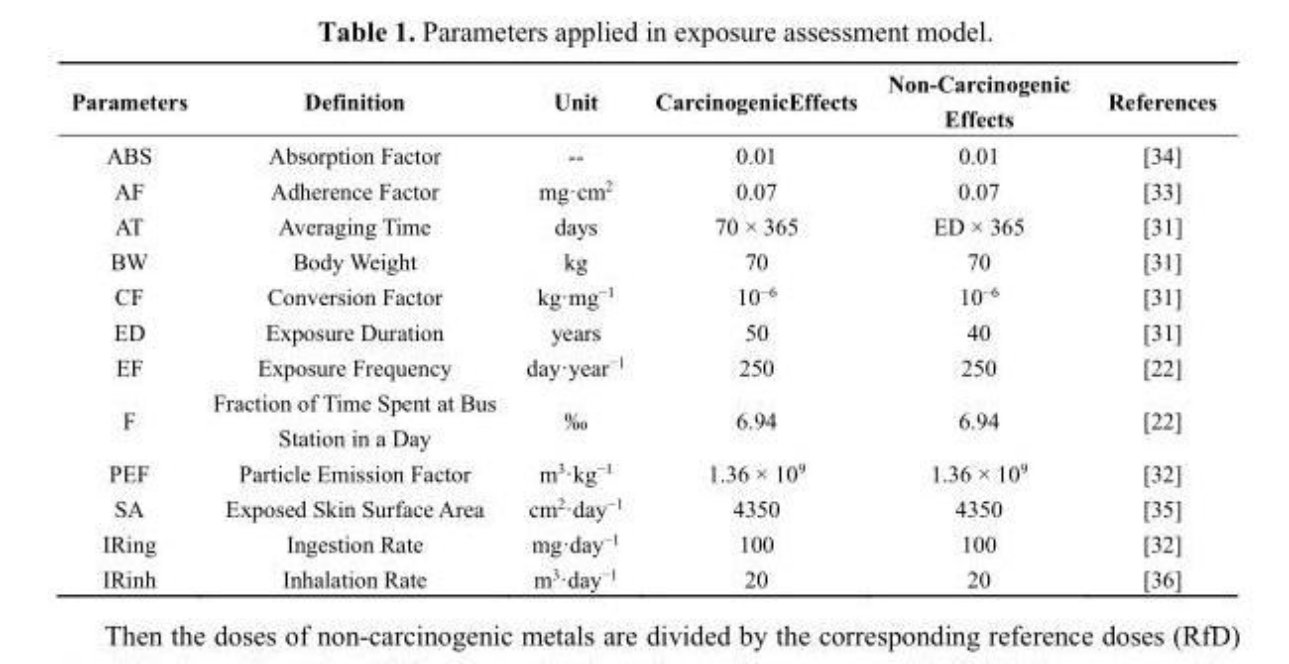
<table><thead><tr><td>Parameters</td><td>Definition</td><td>Unit</td><td>CarcinogenicEffects</td><td>Non-Carcinogenic Effects</td><td>References</td></tr></thead><tbody><tr><td>ABS</td><td>Absorption Factor</td><td>--</td><td>0.01</td><td>0.01</td><td>[34]</td></tr><tr><td>AF</td><td>Adherence Factor</td><td>mg·cm<sup>2</sup></td><td>0.07</td><td>0.07</td><td>[33]</td></tr><tr><td>AT</td><td>Averaging Time</td><td>days</td><td>70 × 365</td><td>ED × 365</td><td>[31]</td></tr><tr><td>BW</td><td>Body Weight</td><td>kg</td><td>70</td><td>70</td><td>[31]</td></tr><tr><td>CF</td><td>Conversion Factor</td><td>kg·mg<sup>−1</sup></td><td>10<sup>−6</sup></td><td>10<sup>−6</sup></td><td>[31]</td></tr><tr><td>ED</td><td>Exposure Duration</td><td>years</td><td>50</td><td>40</td><td>[31]</td></tr><tr><td>EF</td><td>Exposure Frequency</td><td>day·year<sup>−1</sup></td><td>250</td><td>250</td><td>[22]</td></tr><tr><td>F</td><td>Fraction of Time Spent at Bus Station in a Day</td><td>‰</td><td>6.94</td><td>6.94</td><td>[22]</td></tr><tr><td>PEF</td><td>Particle Emission Factor</td><td>m<sup>3</sup>·kg<sup>−1</sup></td><td>1.36 × 10<sup>9</sup></td><td>1.36 × 10<sup>9</sup></td><td>[32]</td></tr><tr><td>SA</td><td>Exposed Skin Surface Area</td><td>cm<sup>2</sup>·day<sup>−1</sup></td><td>4350</td><td>4350</td><td>[35]</td></tr><tr><td>IRing</td><td>Ingestion Rate</td><td>mg·day<sup>−1</sup></td><td>100</td><td>100</td><td>[32]</td></tr><tr><td>IRinh</td><td>Inhalation Rate</td><td>m<sup>3</sup>·day<sup>−1</sup></td><td>20</td><td>20</td><td>[36]</td></tr></tbody></table>